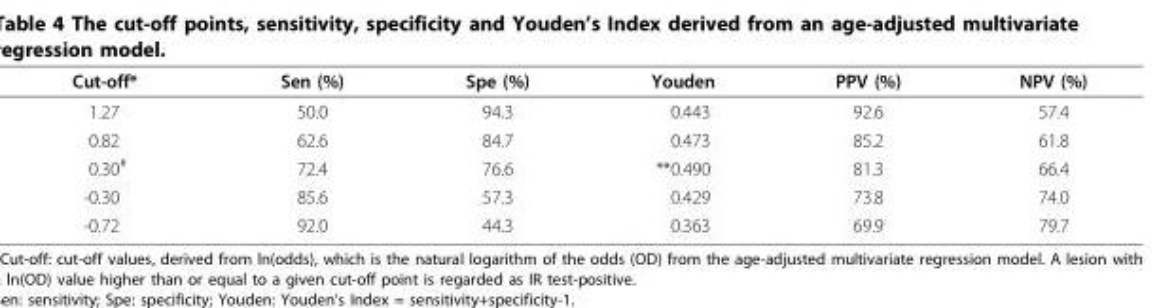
<table><thead><tr><td>Cut-off*</td><td>Sen (%)</td><td>Spe (%)</td><td>Youden</td><td>PPV (%)</td><td>NPV (%)</td></tr></thead><tbody><tr><td>1.27</td><td>50.0</td><td>94.3</td><td>0.443</td><td>92.6</td><td>57.4</td></tr><tr><td>0.82</td><td>62.6</td><td>84.7</td><td>0.473</td><td>85.2</td><td>61.8</td></tr><tr><td>0.30<sup>#</sup></td><td>72.4</td><td>76.6</td><td>**0.490</td><td>81.3</td><td>66.4</td></tr><tr><td>-0.30</td><td>85.6</td><td>57.3</td><td>0.429</td><td>73.8</td><td>74.0</td></tr><tr><td>-0.72</td><td>92.0</td><td>44.3</td><td>0.363</td><td>69.9</td><td>79.7</td></tr></tbody></table>